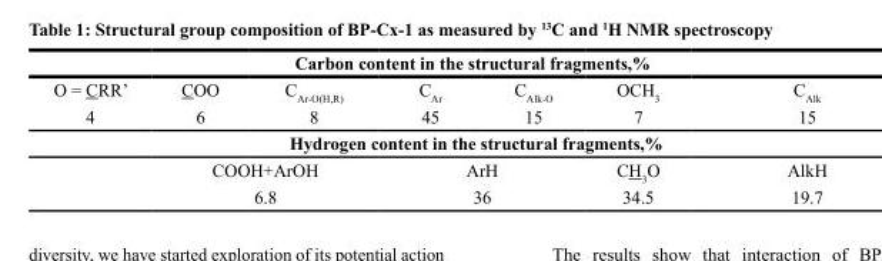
<table><thead><tr><td colspan="7">Carbon content in the structural fragments,%</td></tr><tr><td>O = CRR’</td><td>COO</td><td>C<sub>Ar-O(H,R)</sub></td><td>C<sub>Ar</sub></td><td>C<sub>Alk-O</sub></td><td>OCH<sub>3</sub></td><td>C<sub>Alk</sub></td></tr></thead><tbody><tr><td>4</td><td>6</td><td>8</td><td>45</td><td>15</td><td>7</td><td>15</td></tr><tr><td colspan="7">Hydrogen content in the structural fragments,%</td></tr><tr><td></td><td colspan="2">COOH+ArOH</td><td colspan="2">ArH</td><td>CH<sub>3</sub>O</td><td>AlkH</td></tr><tr><td></td><td colspan="2">6.8</td><td colspan="2">36</td><td>34.5</td><td>19.7</td></tr></tbody></table>